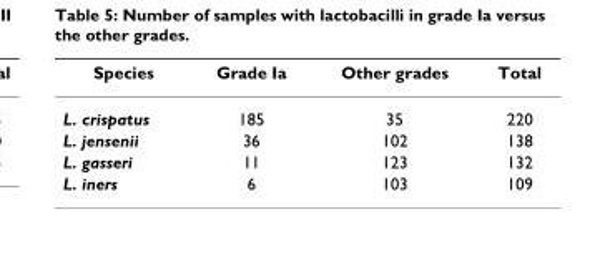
<table><thead><tr><td>Species</td><td>Grade Ia</td><td>Other grades</td><td>Total</td></tr></thead><tbody><tr><td>L. crispatus</td><td>185</td><td>35</td><td>220</td></tr><tr><td>L. jensenii</td><td>36</td><td>102</td><td>138</td></tr><tr><td>L. gasseri</td><td>11</td><td>123</td><td>132</td></tr><tr><td>L. iners</td><td>6</td><td>103</td><td>109</td></tr></tbody></table>